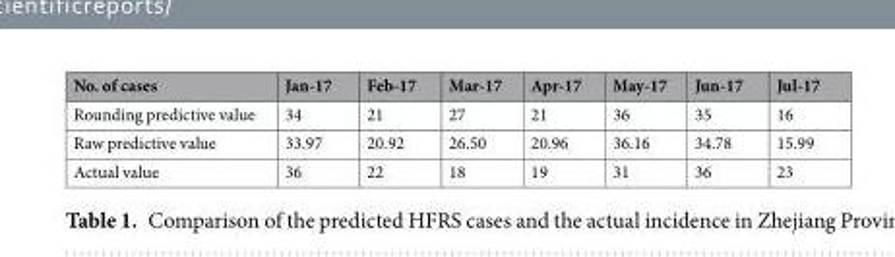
<table><thead><tr><td>No. of cases</td><td>Jan-17</td><td>Feb-17</td><td>Mar-17</td><td>Apr-17</td><td>May-17</td><td>Jun-17</td><td>Jul-17</td></tr></thead><tbody><tr><td>Rounding predictive value</td><td>34</td><td>21</td><td>27</td><td>21</td><td>36</td><td>35</td><td>16</td></tr><tr><td>Raw predictive value</td><td>33.97</td><td>20.92</td><td>26.50</td><td>20.96</td><td>36.16</td><td>34.78</td><td>15.99</td></tr><tr><td>Actual value</td><td>36</td><td>22</td><td>18</td><td>19</td><td>31</td><td>36</td><td>23</td></tr></tbody></table>